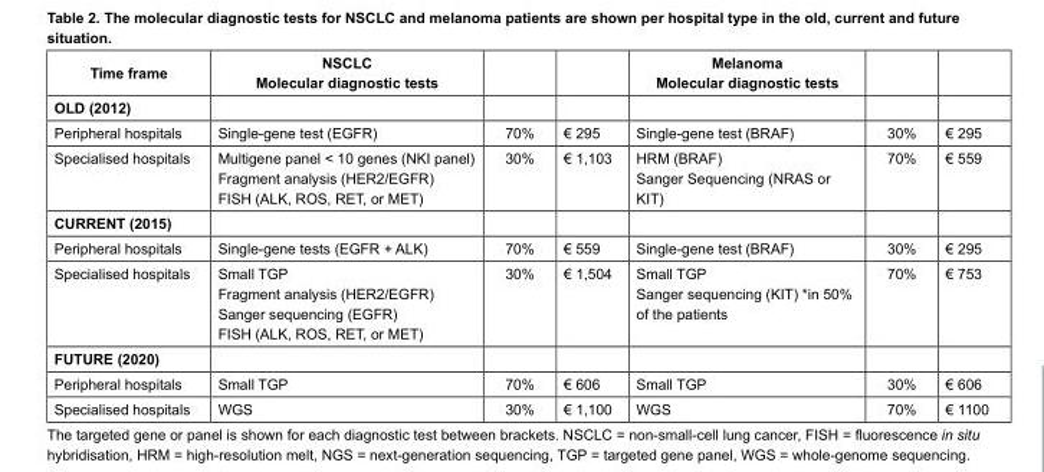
<table><thead><tr><td>Time frame</td><td>NSCLC Molecular diagnostic tests</td><td></td><td></td><td>Melanoma Molecular diagnostic tests</td><td></td><td></td></tr></thead><tbody><tr><td colspan="7">OLD (2012)</td></tr><tr><td>Peripheral hospitals</td><td>Single-gene test (EGFR)</td><td>70%</td><td>€ 295</td><td>Single-gene test (BRAF)</td><td>30%</td><td>€ 295</td></tr><tr><td>Specialised hospitals</td><td>Multigene panel &lt; 10 genes (NKI panel) Fragment analysis (HER2/EGFR) FISH (ALK, ROS, RET, or MET)</td><td>30%</td><td>€ 1,103</td><td>HRM (BRAF) Sanger Sequencing (NRAS or KIT)</td><td>70%</td><td>€ 559</td></tr><tr><td colspan="7">CURRENT (2015)</td></tr><tr><td>Peripheral hospitals</td><td>Single-gene tests (EGFR + ALK)</td><td>70%</td><td>€ 559</td><td>Single-gene test (BRAF)</td><td>30%</td><td>€ 295</td></tr><tr><td>Specialised hospitals</td><td>Small TGP Fragment analysis (HER2/EGFR) Sanger sequencing (EGFR) FISH (ALK, ROS, RET, or MET)</td><td>30%</td><td>€ 1,504</td><td>Small TGP Sanger sequencing (KIT) *in 50% of the patients</td><td>70%</td><td>€ 753</td></tr><tr><td colspan="7">FUTURE (2020)</td></tr><tr><td>Peripheral hospitals</td><td>Small TGP</td><td>70%</td><td>€ 606</td><td>Small TGP</td><td>30%</td><td>€ 606</td></tr><tr><td>Specialised hospitals</td><td>WGS</td><td>30%</td><td>€ 1,100</td><td>WGS</td><td>70%</td><td>€ 1100</td></tr></tbody></table>